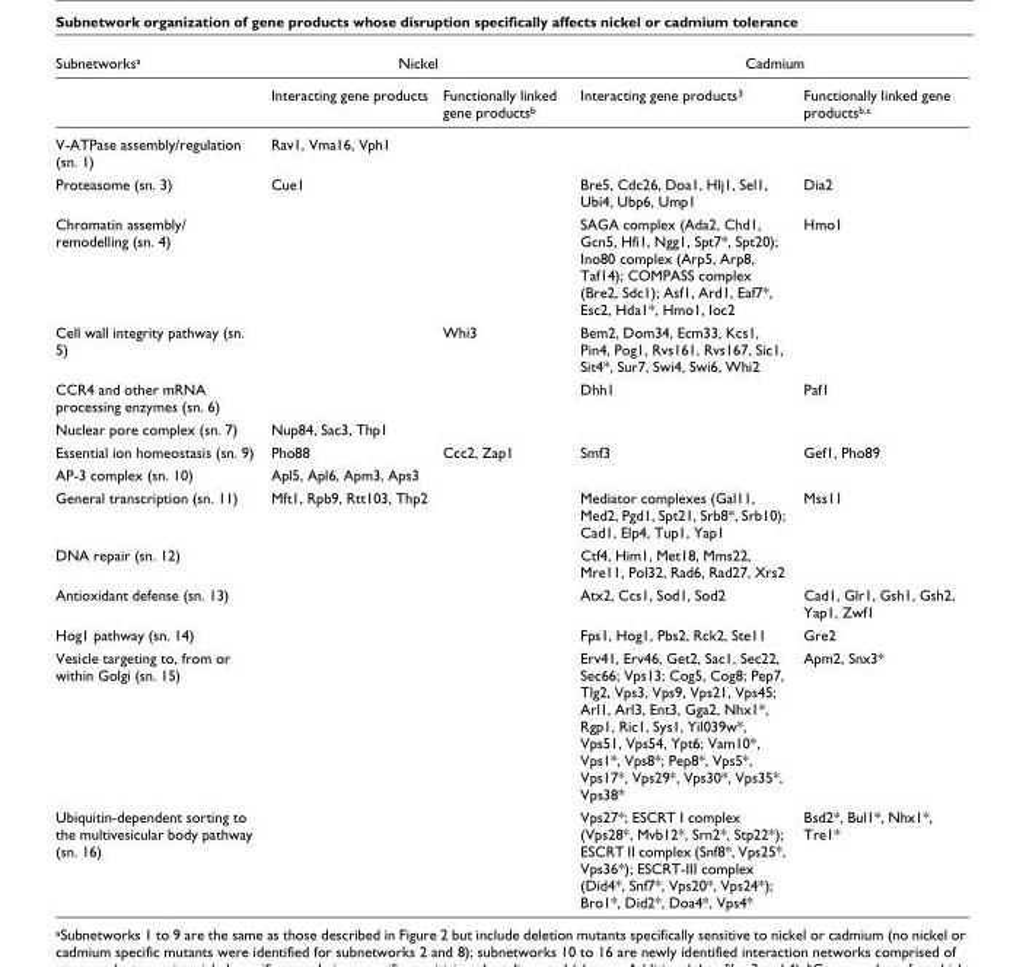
<table><thead><tr><td rowspan="2">Subnetworks<sup>a</sup></td><td colspan="2">Nickel</td><td colspan="2">Cadmium</td></tr><tr><td>Interacting gene products</td><td>Functionally linked gene products<sup>b</sup></td><td>Interacting gene products<sup>3</sup></td><td>Functionally linked gene products<sup>b,c</sup></td></tr></thead><tbody><tr><td>V-ATPase assembly/regulation (sn. 1)</td><td>Rav1, Vma16, Vph1</td><td></td><td></td><td></td></tr><tr><td>Proteasome (sn. 3)</td><td>Cue1</td><td></td><td>Bre5, Cdc26, Doa1, Hlj1, Sel1, Ubi4, Ubp6, Ump1</td><td>Dia2</td></tr><tr><td>Chromatin assembly/ remodelling (sn. 4)</td><td></td><td></td><td>SAGA complex (Ada2, Chd1, Gcn5, Hfi1, Ngg1, Spt7*, Spt20); Ino80 complex (Arp5, Arp8, Taf14); COMPASS complex (Bre2, Sdc1); Asf1, Ard1, Eaf7*, Esc2, Hda1*, Hmo1, Ioc2</td><td>Hmo1</td></tr><tr><td>Cell wall integrity pathway (sn. 5)</td><td></td><td>Whi3</td><td>Bem2, Dom34, Ecm33, Kcs1, Pin4, Pog1, Rvs161, Rvs167, Sic1, Sit4*, Sur7, Swi4, Swi6, Whi2</td><td></td></tr><tr><td>CCR4 and other mRNA processing enzymes (sn. 6)</td><td></td><td></td><td>Dhh1</td><td>Paf1</td></tr><tr><td>Nuclear pore complex (sn. 7)</td><td>Nup84, Sac3, Thp1</td><td></td><td></td><td></td></tr><tr><td>Essential ion homeostasis (sn. 9)</td><td>Pho88</td><td>Ccc2, Zap1</td><td>Smf3</td><td>Gef1, Pho89</td></tr><tr><td>AP-3 complex (sn. 10)</td><td>Apl5, Apl6, Apm3, Aps3</td><td></td><td></td><td></td></tr><tr><td>General transcription (sn. 11)</td><td>Mft1, Rpb9, Rtt103, Thp2</td><td></td><td>Mediator complexes (Gal11, Med2, Pgd1, Spt21, Srb8*, Srb10); Cad1, Elp4, Tup1, Yap1</td><td>Mss11</td></tr><tr><td>DNA repair (sn. 12)</td><td></td><td></td><td>Ctf4, Him1, Met18, Mms22, Mre11, Pol32, Rad6, Rad27, Xrs2</td><td></td></tr><tr><td>Antioxidant defense (sn. 13)</td><td></td><td></td><td>Atx2, Ccs1, Sod1, Sod2</td><td>Cad1, Glr1, Gsh1, Gsh2, Yap1, Zwf1</td></tr><tr><td>Hog1 pathway (sn. 14)</td><td></td><td></td><td>Fps1, Hog1, Pbs2, Rck2, Ste11</td><td>Gre2</td></tr><tr><td>Vesicle targeting to, from or within Golgi (sn. 15)</td><td></td><td></td><td>Erv41, Erv46, Get2, Sac1, Sec22, Sec66; Vps13; Cog5, Cog8; Pep7, Tlg2, Vps3, Vps9, Vps21, Vps45; Arl1, Arl3, Ent3, Gga2, Nhx1*, Rgp1, Ric1, Sys1, Yil039w*, Vps51, Vps54, Ypt6; Vam10*, Vps1*, Vps8*; Pep8*, Vps5*, Vps17*, Vps29*, Vps30*, Vps35*, Vps38*</td><td>Apm2, Snx3*</td></tr><tr><td>Ubiquitin-dependent sorting to the multivesicular body pathway (sn. 16)</td><td></td><td></td><td>Vps27*; ESCRT I complex (Vps28*, Mvb12*, Srn2*, Stp22*); ESCRT II complex (Snf8*, Vps25*, Vps36*); ESCRT-III complex (Did4*, Snf7*, Vps20*, Vps24*); Bro1*, Did2*, Doa4*, Vps4*</td><td>Bsd2*, Bul1*, Nhx1*, Tre1*</td></tr></tbody></table>